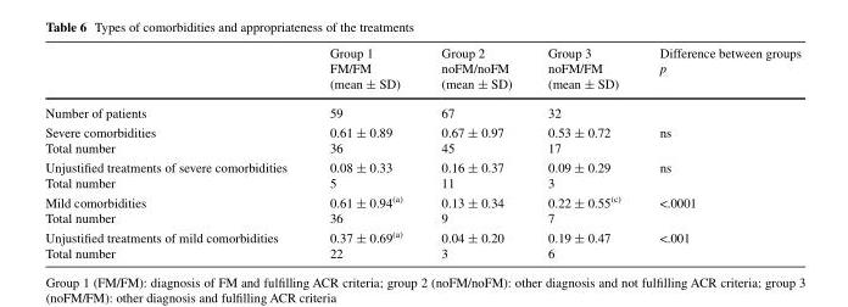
<table><thead><tr><td></td><td>Group 1 FM/FM (mean ± SD)</td><td>Group 2 noFM/noFM (mean ± SD)</td><td>Group 3 noFM/FM (mean ± SD)</td><td>Difference between groups p</td></tr></thead><tbody><tr><td>Number of patients</td><td>59</td><td>67</td><td>32</td><td></td></tr><tr><td>Severe comorbidities Total number</td><td>0.61 ± 0.89 36</td><td>0.67 ± 0.97 45</td><td>0.53 ± 0.72 17</td><td>ns</td></tr><tr><td>Unjustified treatments of severe comorbidities Total number</td><td>0.08 ± 0.33 5</td><td>0.16 ± 0.37 11</td><td>0.09 ± 0.29 3</td><td>ns</td></tr><tr><td>Mild comorbidities Total number</td><td>0.61 ± 0.94<sup>(a)</sup> 36</td><td>0.13 ± 0.34 9</td><td>0.22 ± 0.55<sup>(c)</sup> 7</td><td>&lt;.0001</td></tr><tr><td>Unjustified treatments of mild comorbidities Total number</td><td>0.37 ± 0.69<sup>(a)</sup> 22</td><td>0.04 ± 0.20 3</td><td>0.19 ± 0.47 6</td><td>&lt;.001</td></tr></tbody></table>